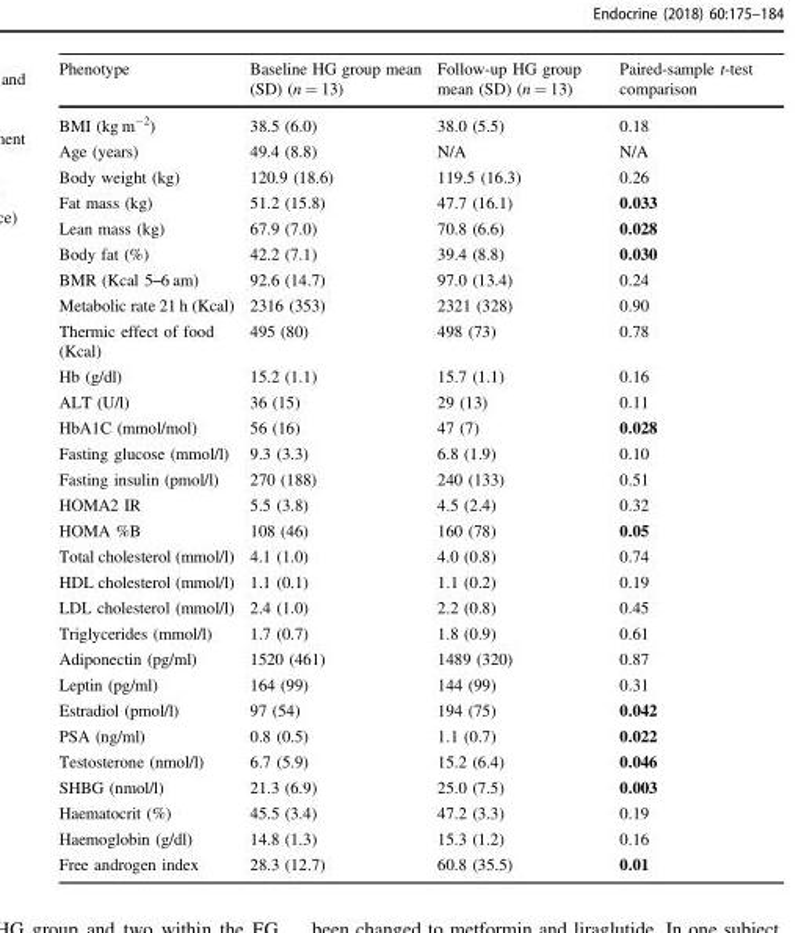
<table><thead><tr><td>Phenotype</td><td>Baseline HG group mean (SD) (n = 13)</td><td>Follow-up HG group mean (SD) (n = 13)</td><td>Paired-sample t-test comparison</td></tr></thead><tbody><tr><td>BMI (kg m<sup>−2</sup>)</td><td>38.5 (6.0)</td><td>38.0 (5.5)</td><td>0.18</td></tr><tr><td>Age (years)</td><td>49.4 (8.8)</td><td>N/A</td><td>N/A</td></tr><tr><td>Body weight (kg)</td><td>120.9 (18.6)</td><td>119.5 (16.3)</td><td>0.26</td></tr><tr><td>Fat mass (kg)</td><td>51.2 (15.8)</td><td>47.7 (16.1)</td><td>0.033</td></tr><tr><td>Lean mass (kg)</td><td>67.9 (7.0)</td><td>70.8 (6.6)</td><td>0.028</td></tr><tr><td>Body fat (%)</td><td>42.2 (7.1)</td><td>39.4 (8.8)</td><td>0.030</td></tr><tr><td>BMR (Kcal 5–6 am)</td><td>92.6 (14.7)</td><td>97.0 (13.4)</td><td>0.24</td></tr><tr><td>Metabolic rate 21 h (Kcal)</td><td>2316 (353)</td><td>2321 (328)</td><td>0.90</td></tr><tr><td>Thermic effect of food (Kcal)</td><td>495 (80)</td><td>498 (73)</td><td>0.78</td></tr><tr><td>Hb (g/dl)</td><td>15.2 (1.1)</td><td>15.7 (1.1)</td><td>0.16</td></tr><tr><td>ALT (U/l)</td><td>36 (15)</td><td>29 (13)</td><td>0.11</td></tr><tr><td>HbA1C (mmol/mol)</td><td>56 (16)</td><td>47 (7)</td><td>0.028</td></tr><tr><td>Fasting glucose (mmol/l)</td><td>9.3 (3.3)</td><td>6.8 (1.9)</td><td>0.10</td></tr><tr><td>Fasting insulin (pmol/l)</td><td>270 (188)</td><td>240 (133)</td><td>0.51</td></tr><tr><td>HOMA2 IR</td><td>5.5 (3.8)</td><td>4.5 (2.4)</td><td>0.32</td></tr><tr><td>HOMA %B</td><td>108 (46)</td><td>160 (78)</td><td>0.05</td></tr><tr><td>Total cholesterol (mmol/l)</td><td>4.1 (1.0)</td><td>4.0 (0.8)</td><td>0.74</td></tr><tr><td>HDL cholesterol (mmol/l)</td><td>1.1 (0.1)</td><td>1.1 (0.2)</td><td>0.19</td></tr><tr><td>LDL cholesterol (mmol/l)</td><td>2.4 (1.0)</td><td>2.2 (0.8)</td><td>0.45</td></tr><tr><td>Triglycerides (mmol/l)</td><td>1.7 (0.7)</td><td>1.8 (0.9)</td><td>0.61</td></tr><tr><td>Adiponectin (pg/ml)</td><td>1520 (461)</td><td>1489 (320)</td><td>0.87</td></tr><tr><td>Leptin (pg/ml)</td><td>164 (99)</td><td>144 (99)</td><td>0.31</td></tr><tr><td>Estradiol (pmol/l)</td><td>97 (54)</td><td>194 (75)</td><td>0.042</td></tr><tr><td>PSA (ng/ml)</td><td>0.8 (0.5)</td><td>1.1 (0.7)</td><td>0.022</td></tr><tr><td>Testosterone (nmol/l)</td><td>6.7 (5.9)</td><td>15.2 (6.4)</td><td>0.046</td></tr><tr><td>SHBG (nmol/l)</td><td>21.3 (6.9)</td><td>25.0 (7.5)</td><td>0.003</td></tr><tr><td>Haematocrit (%)</td><td>45.5 (3.4)</td><td>47.2 (3.3)</td><td>0.19</td></tr><tr><td>Haemoglobin (g/dl)</td><td>14.8 (1.3)</td><td>15.3 (1.2)</td><td>0.16</td></tr><tr><td>Free androgen index</td><td>28.3 (12.7)</td><td>60.8 (35.5)</td><td>0.01</td></tr></tbody></table>